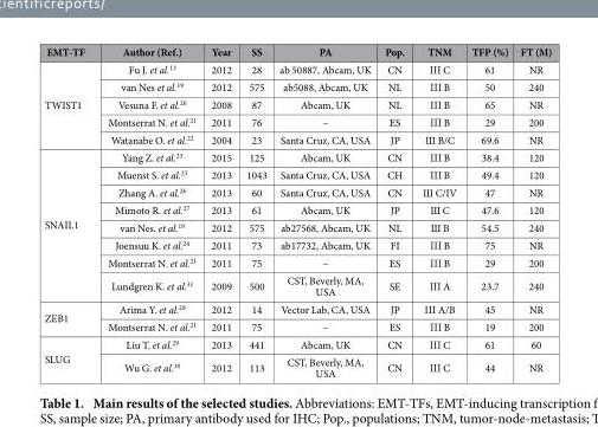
<table><thead><tr><td>EMT-TF</td><td>Author (Ref.)</td><td>Year</td><td>SS</td><td>PA</td><td>Pop.</td><td>TNM</td><td>TFP (%)</td><td>FT (M)</td></tr></thead><tbody><tr><td rowspan="5">TWIST1</td><td>Fu J. et al.<sup>13</sup></td><td>2012</td><td>28</td><td>ab 50887, Abcam, UK</td><td>CN</td><td>Ι Ι Ι C</td><td>61</td><td>NR</td></tr><tr><td>van Nes et al.<sup>19</sup></td><td>2012</td><td>575</td><td>ab5088, Abcam, UK</td><td>NL</td><td>Ι Ι Ι B</td><td>50</td><td>240</td></tr><tr><td>Vesuna F. et al.<sup>20</sup></td><td>2008</td><td>87</td><td>Abcam, UK</td><td>NL</td><td>Ι Ι Ι B</td><td>65</td><td>NR</td></tr><tr><td>Montserrat N. et al.<sup>21</sup></td><td>2011</td><td>76</td><td>–</td><td>ES</td><td>Ι Ι Ι B</td><td>29</td><td>200</td></tr><tr><td>Watanabe O. et al.<sup>22</sup></td><td>2004</td><td>23</td><td>Santa Cruz, CA, USA</td><td>JP</td><td>Ш B/C</td><td>69.6</td><td>NR</td></tr><tr><td rowspan="8">SNAIL1</td><td>Yang Z. et al.<sup>23</sup></td><td>2015</td><td>125</td><td>Abcam, UK</td><td>CN</td><td>Ι Ι Ι B</td><td>38.4</td><td>120</td></tr><tr><td>Muenst S. et al.<sup>25</sup></td><td>2013</td><td>1043</td><td>Santa Cruz, CA, USA</td><td>CH</td><td>Ι Ι Ι B</td><td>49.4</td><td>120</td></tr><tr><td>Zhang A. et al.<sup>26</sup></td><td>2013</td><td>60</td><td>Santa Cruz, CA, USA</td><td>CN</td><td>Ш C/IV</td><td>47</td><td>NR</td></tr><tr><td>Mimoto R. et al.<sup>27</sup></td><td>2013</td><td>61</td><td>Abcam, UK</td><td>JP</td><td>Ш C</td><td>47.6</td><td>120</td></tr><tr><td>van Nes. et al.<sup>19</sup></td><td>2012</td><td>575</td><td>ab27568, Abcam, UK</td><td>NL</td><td>Ш B</td><td>54.5</td><td>240</td></tr><tr><td>Joensuu K. et al.<sup>24</sup></td><td>2011</td><td>73</td><td>ab17732, Abcam, UK</td><td>FI</td><td>Ι Ι Ι B</td><td>75</td><td>NR</td></tr><tr><td>Montserrat N. et al.<sup>21</sup></td><td>2011</td><td>75</td><td>–</td><td>ES</td><td>Ι Ι Ι B</td><td>29</td><td>200</td></tr><tr><td>Lundgren K. et al.<sup>31</sup></td><td>2009</td><td>500</td><td>CST, Beverly, MA, USA</td><td>SE</td><td>Ι Ι Ι A</td><td>23.7</td><td>240</td></tr><tr><td rowspan="2">ZEB1</td><td>Arima Y. et al.<sup>28</sup></td><td>2012</td><td>14</td><td>Vector Lab, CA, USA</td><td>JP</td><td>Ι Ι Ι A/B</td><td>45</td><td>NR</td></tr><tr><td>Montserrat N. et al.<sup>21</sup></td><td>2011</td><td>75</td><td>–</td><td>ES</td><td>Ι Ι Ι B</td><td>19</td><td>200</td></tr><tr><td rowspan="2">SLUG</td><td>Liu T. et al.<sup>29</sup></td><td>2013</td><td>441</td><td>Abcam, UK</td><td>CN</td><td>Ι Ι Ι C</td><td>61</td><td>60</td></tr><tr><td>Wu G. et al.<sup>30</sup></td><td>2012</td><td>113</td><td>CST, Beverly, MA, USA</td><td>CN</td><td>Ι Ι Ι C</td><td>44</td><td>NR</td></tr></tbody></table>